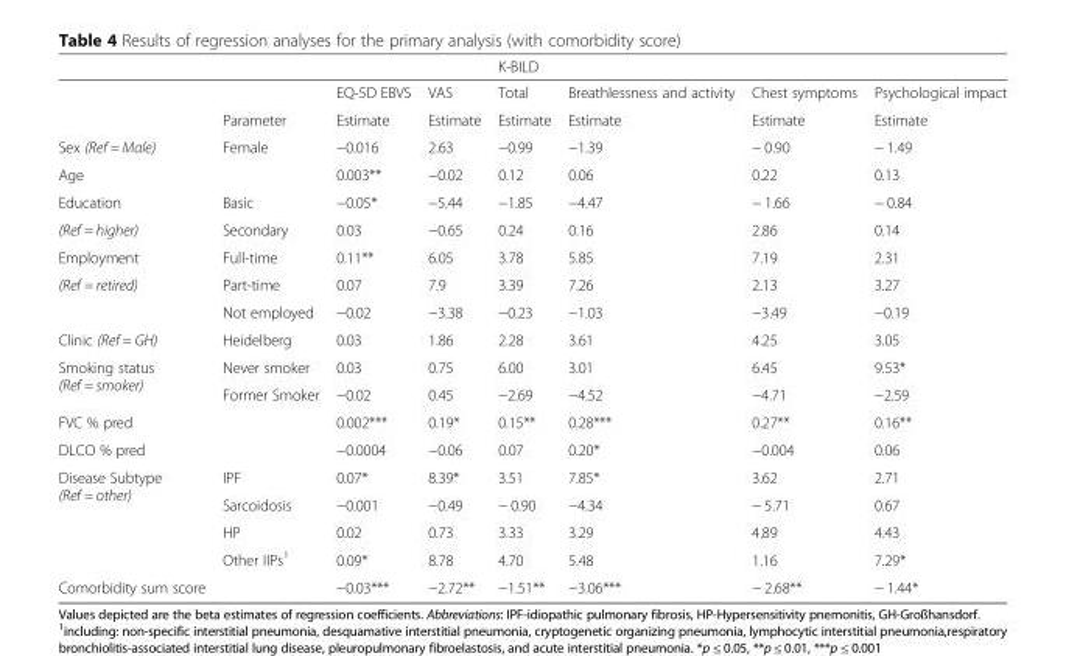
<table><thead><tr><td></td><td></td><td rowspan="2">EQ-5D EBVS</td><td rowspan="2">VAS</td><td colspan="4">K-BILD</td></tr><tr><td colspan="2"></td><td>Total</td><td>Breathlessness and activity</td><td>Chest symptoms</td><td>Psychological impact</td></tr></thead><tbody><tr><td></td><td>Parameter</td><td>Estimate</td><td>Estimate</td><td>Estimate</td><td>Estimate</td><td>Estimate</td><td>Estimate</td></tr><tr><td>Sex (Ref = Male)</td><td>Female</td><td>−0.016</td><td>2.63</td><td>−0.99</td><td>−1.39</td><td>− 0.90</td><td>− 1.49</td></tr><tr><td>Age</td><td></td><td>0.003**</td><td>−0.02</td><td>0.12</td><td>0.06</td><td>0.22</td><td>0.13</td></tr><tr><td>Education</td><td>Basic</td><td>−0.05*</td><td>−5.44</td><td>−1.85</td><td>−4.47</td><td>− 1.66</td><td>− 0.84</td></tr><tr><td>(Ref = higher)</td><td>Secondary</td><td>0.03</td><td>−0.65</td><td>0.24</td><td>0.16</td><td>2.86</td><td>0.14</td></tr><tr><td>Employment</td><td>Full-time</td><td>0.11**</td><td>6.05</td><td>3.78</td><td>5.85</td><td>7.19</td><td>2.31</td></tr><tr><td rowspan="2">(Ref = retired)</td><td>Part-time</td><td>0.07</td><td>7.9</td><td>3.39</td><td>7.26</td><td>2.13</td><td>3.27</td></tr><tr><td>Not employed</td><td>−0.02</td><td>−3.38</td><td>−0.23</td><td>−1.03</td><td>−3.49</td><td>−0.19</td></tr><tr><td>Clinic (Ref = GH)</td><td>Heidelberg</td><td>0.03</td><td>1.86</td><td>2.28</td><td>3.61</td><td>4.25</td><td>3.05</td></tr><tr><td rowspan="2">Smoking status (Ref = smoker)</td><td>Never smoker</td><td>0.03</td><td>0.75</td><td>6.00</td><td>3.01</td><td>6.45</td><td>9.53*</td></tr><tr><td>Former Smoker</td><td>−0.02</td><td>0.45</td><td>−2.69</td><td>−4.52</td><td>−4.71</td><td>−2.59</td></tr><tr><td>FVC % pred</td><td rowspan="2"></td><td>0.002***</td><td>0.19*</td><td>0.15**</td><td>0.28***</td><td>0.27**</td><td>0.16**</td></tr><tr><td>DLCO % pred</td><td>−0.0004</td><td>−0.06</td><td>0.07</td><td>0.20*</td><td>−0.004</td><td>0.06</td></tr><tr><td rowspan="4">Disease Subtype (Ref = other)</td><td>IPF</td><td>0.07*</td><td>8.39*</td><td>3.51</td><td>7.85*</td><td>3.62</td><td>2.71</td></tr><tr><td>Sarcoidosis</td><td>−0.001</td><td>−0.49</td><td>− 0.90</td><td>−4.34</td><td>− 5.71</td><td>0.67</td></tr><tr><td>HP</td><td>0.02</td><td>0.73</td><td>3.33</td><td>3.29</td><td>4.89</td><td>4.43</td></tr><tr><td>Other IIPs<sup>1</sup></td><td>0.09*</td><td>8.78</td><td>4.70</td><td>5.48</td><td>1.16</td><td>7.29*</td></tr><tr><td>Comorbidity sum score</td><td></td><td>−0.03***</td><td>−2.72**</td><td>−1.51**</td><td>−3.06***</td><td>− 2.68**</td><td>− 1.44*</td></tr></tbody></table>